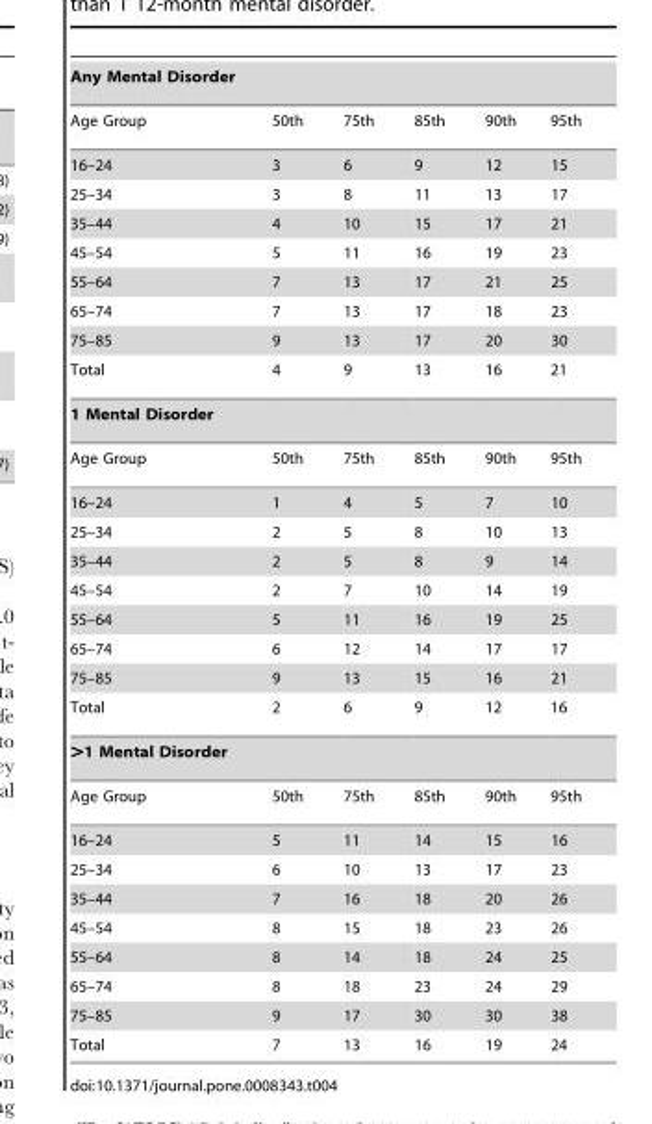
<table><tbody><tr><td colspan="6">Any Mental Disorder</td></tr><tr><td>Age Group</td><td>50th</td><td>75th</td><td>85th</td><td>90th</td><td>95th</td></tr><tr><td>16–24</td><td>3</td><td>6</td><td>9</td><td>12</td><td>15</td></tr><tr><td>25–34</td><td>3</td><td>8</td><td>11</td><td>13</td><td>17</td></tr><tr><td>35–44</td><td>4</td><td>10</td><td>15</td><td>17</td><td>21</td></tr><tr><td>45–54</td><td>5</td><td>11</td><td>16</td><td>19</td><td>23</td></tr><tr><td>55–64</td><td>7</td><td>13</td><td>17</td><td>21</td><td>25</td></tr><tr><td>65–74</td><td>7</td><td>13</td><td>17</td><td>18</td><td>23</td></tr><tr><td>75–85</td><td>9</td><td>13</td><td>17</td><td>20</td><td>30</td></tr><tr><td>Total</td><td>4</td><td>9</td><td>13</td><td>16</td><td>21</td></tr><tr><td colspan="6">1 Mental Disorder</td></tr><tr><td>Age Group</td><td>50th</td><td>75th</td><td>85th</td><td>90th</td><td>95th</td></tr><tr><td>16–24</td><td>1</td><td>4</td><td>5</td><td>7</td><td>10</td></tr><tr><td>25–34</td><td>2</td><td>5</td><td>8</td><td>10</td><td>13</td></tr><tr><td>35–44</td><td>2</td><td>5</td><td>8</td><td>9</td><td>14</td></tr><tr><td>45–54</td><td>2</td><td>7</td><td>10</td><td>14</td><td>19</td></tr><tr><td>55–64</td><td>5</td><td>11</td><td>16</td><td>19</td><td>25</td></tr><tr><td>65–74</td><td>6</td><td>12</td><td>14</td><td>17</td><td>17</td></tr><tr><td>75–85</td><td>9</td><td>13</td><td>15</td><td>16</td><td>21</td></tr><tr><td>Total</td><td>2</td><td>6</td><td>9</td><td>12</td><td>16</td></tr><tr><td colspan="6">&gt;1 Mental Disorder</td></tr><tr><td>Age Group</td><td>50th</td><td>75th</td><td>85th</td><td>90th</td><td>95th</td></tr><tr><td>16–24</td><td>5</td><td>11</td><td>14</td><td>15</td><td>16</td></tr><tr><td>25–34</td><td>6</td><td>10</td><td>13</td><td>17</td><td>23</td></tr><tr><td>35–44</td><td>7</td><td>16</td><td>18</td><td>20</td><td>26</td></tr><tr><td>45–54</td><td>8</td><td>15</td><td>18</td><td>23</td><td>26</td></tr><tr><td>55–64</td><td>8</td><td>14</td><td>18</td><td>24</td><td>25</td></tr><tr><td>65–74</td><td>8</td><td>18</td><td>23</td><td>24</td><td>29</td></tr><tr><td>75–85</td><td>9</td><td>17</td><td>30</td><td>30</td><td>38</td></tr><tr><td>Total</td><td>7</td><td>13</td><td>16</td><td>19</td><td>24</td></tr></tbody></table>